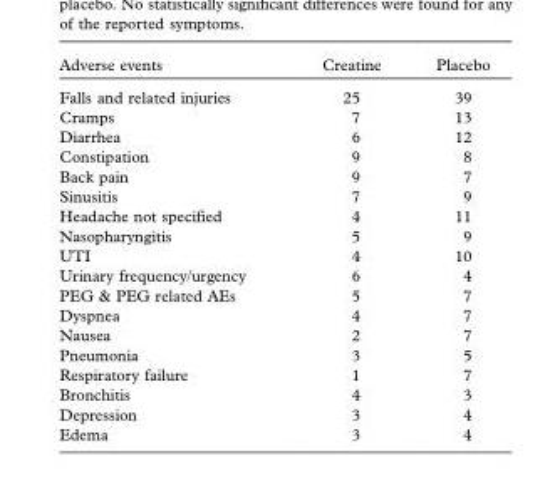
<table><thead><tr><td>Adverse events</td><td>Creatine</td><td>Placebo</td></tr></thead><tbody><tr><td>Falls and related injuries</td><td>25</td><td>39</td></tr><tr><td>Cramps</td><td>7</td><td>13</td></tr><tr><td>Diarrhea</td><td>6</td><td>12</td></tr><tr><td>Constipation</td><td>9</td><td>8</td></tr><tr><td>Back pain</td><td>9</td><td>7</td></tr><tr><td>Sinusitis</td><td>7</td><td>9</td></tr><tr><td>Headache not specified</td><td>4</td><td>11</td></tr><tr><td>Nasopharyngitis</td><td>5</td><td>9</td></tr><tr><td>UTI</td><td>4</td><td>10</td></tr><tr><td>Urinary frequency/urgency</td><td>6</td><td>4</td></tr><tr><td>PEG &amp; PEG related AEs</td><td>5</td><td>7</td></tr><tr><td>Dyspnea</td><td>4</td><td>7</td></tr><tr><td>Nausea</td><td>2</td><td>7</td></tr><tr><td>Pneumonia</td><td>3</td><td>5</td></tr><tr><td>Respiratory failure</td><td>1</td><td>7</td></tr><tr><td>Bronchitis</td><td>4</td><td>3</td></tr><tr><td>Depression</td><td>3</td><td>4</td></tr><tr><td>Edema</td><td>3</td><td>4</td></tr></tbody></table>